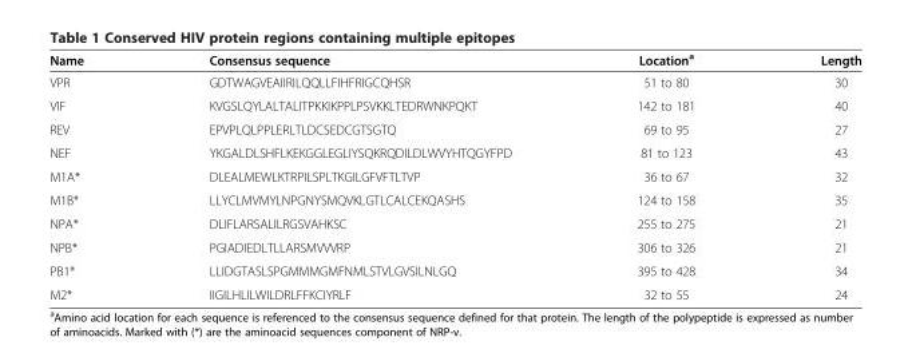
<table><thead><tr><td>Name</td><td>Consensus sequence</td><td>Location<sup>a</sup></td><td>Length</td></tr></thead><tbody><tr><td>VPR</td><td>GDTWAGVEAIIRILQQLLFIHFRIGCQHSR</td><td>51 to 80</td><td>30</td></tr><tr><td>VIF</td><td>KVGSLQYLALTALITPKKIKPPLPSVKKLTEDRWNKPQKT</td><td>142 to 181</td><td>40</td></tr><tr><td>REV</td><td>EPVPLQLPPLERLTLDCSEDCGTSGTQ</td><td>69 to 95</td><td>27</td></tr><tr><td>NEF</td><td>YKGALDLSHFLKEKGGLEGLIYSQKRQDILDLWVYHTQGYFPD</td><td>81 to 123</td><td>43</td></tr><tr><td>M1A*</td><td>DLEALMEWLKTRPILSPLTKGILGFVFTLTVP</td><td>36 to 67</td><td>32</td></tr><tr><td>M1B*</td><td>LLYCLMVMYLNPGNYSMQVKLGTLCALCEKQASHS</td><td>124 to 158</td><td>35</td></tr><tr><td>NPA*</td><td>DLIFLARSALILRGSVAHKSC</td><td>255 to 275</td><td>21</td></tr><tr><td>NPB*</td><td>PGIADIEDLTLLARSMVVVRP</td><td>306 to 326</td><td>21</td></tr><tr><td>PB1*</td><td>LLIDGTASLSPGMMMGMFNMLSTVLGVSILNLGQ</td><td>395 to 428</td><td>34</td></tr><tr><td>M2*</td><td>IIGILHLILWILDRLFFKCIYRLF</td><td>32 to 55</td><td>24</td></tr></tbody></table>